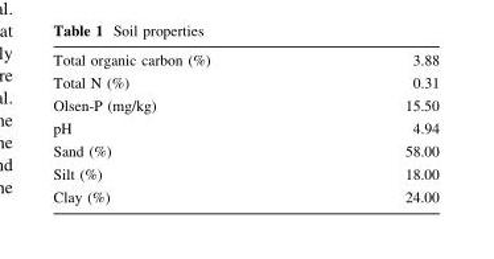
<table><tbody><tr><td>Total organic carbon (%)</td><td>3.88</td></tr><tr><td>Total N (%)</td><td>0.31</td></tr><tr><td>Olsen-P (mg/kg)</td><td>15.50</td></tr><tr><td>pH</td><td>4.94</td></tr><tr><td>Sand (%)</td><td>58.00</td></tr><tr><td>Silt (%)</td><td>18.00</td></tr><tr><td>Clay (%)</td><td>24.00</td></tr></tbody></table>